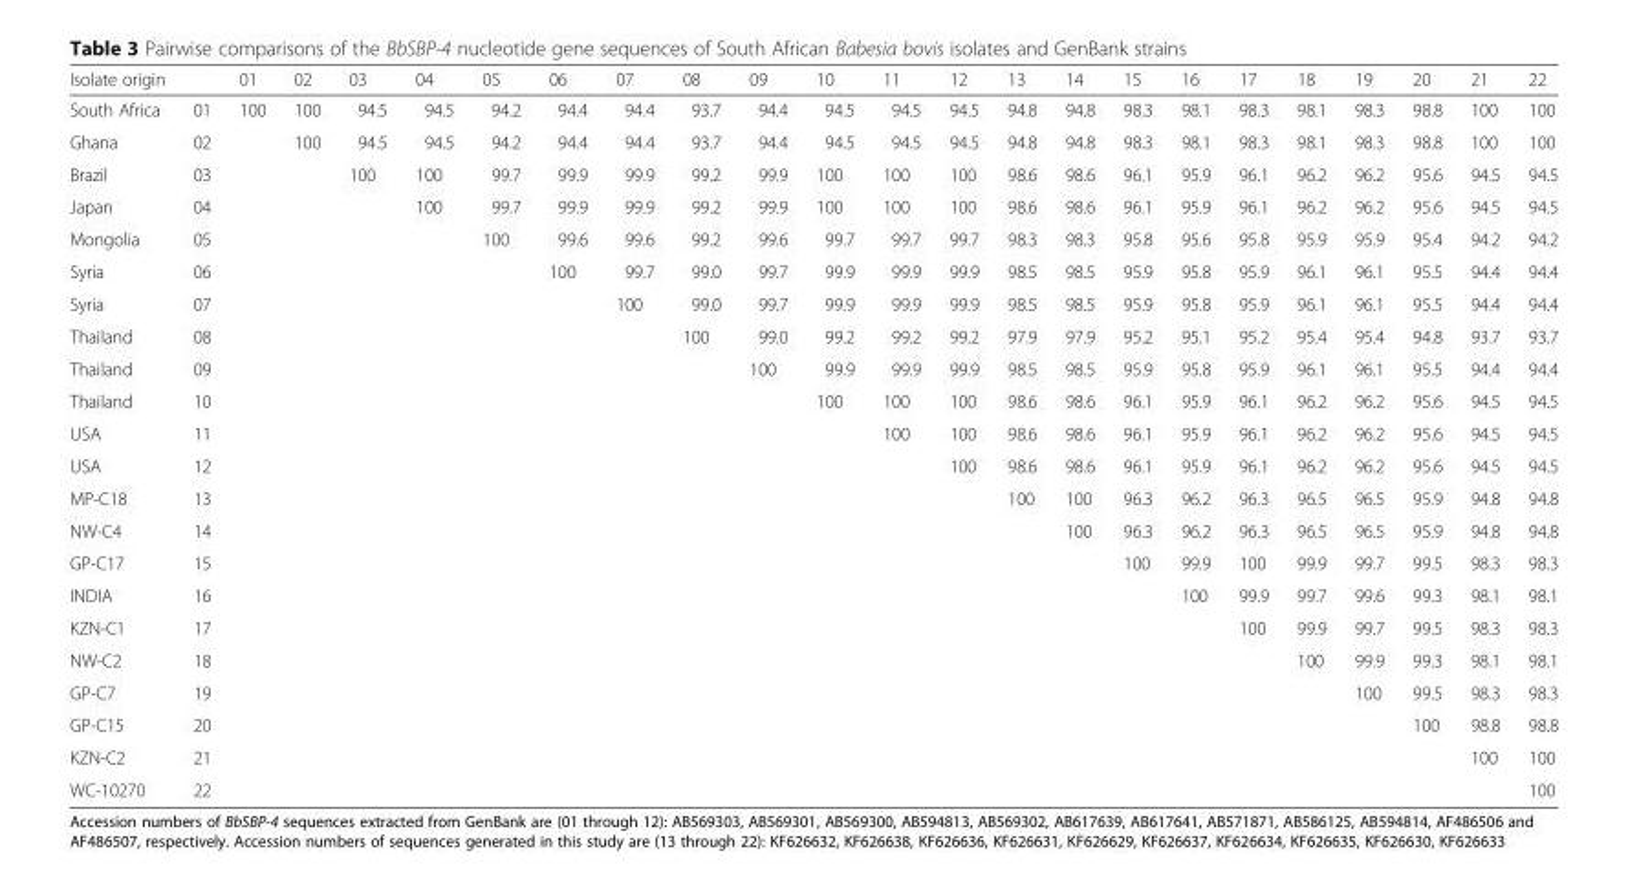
<table><thead><tr><td>Isolate origin</td><td></td><td>01</td><td>02</td><td>03</td><td>04</td><td>05</td><td>06</td><td>07</td><td>08</td><td>09</td><td>10</td><td>11</td><td>12</td><td>13</td><td>14</td><td>15</td><td>16</td><td>17</td><td>18</td><td>19</td><td>20</td><td>21</td><td>22</td></tr></thead><tbody><tr><td>South Africa</td><td>01</td><td>100</td><td>100</td><td>94.5</td><td>94.5</td><td>94.2</td><td>94.4</td><td>94.4</td><td>93.7</td><td>94.4</td><td>94.5</td><td>94.5</td><td>94.5</td><td>94.8</td><td>94.8</td><td>98.3</td><td>98.1</td><td>98.3</td><td>98.1</td><td>98.3</td><td>98.8</td><td>100</td><td>100</td></tr><tr><td>Ghana</td><td>02</td><td></td><td>100</td><td>94.5</td><td>94.5</td><td>94.2</td><td>94.4</td><td>94.4</td><td>93.7</td><td>94.4</td><td>94.5</td><td>94.5</td><td>94.5</td><td>94.8</td><td>94.8</td><td>98.3</td><td>98.1</td><td>98.3</td><td>98.1</td><td>98.3</td><td>98.8</td><td>100</td><td>100</td></tr><tr><td>Brazil</td><td>03</td><td></td><td></td><td>100</td><td>100</td><td>99.7</td><td>99.9</td><td>99.9</td><td>99.2</td><td>99.9</td><td>100</td><td>100</td><td>100</td><td>98.6</td><td>98.6</td><td>96.1</td><td>95.9</td><td>96.1</td><td>96.2</td><td>96.2</td><td>95.6</td><td>94.5</td><td>94.5</td></tr><tr><td>Japan</td><td>04</td><td></td><td></td><td></td><td>100</td><td>99.7</td><td>99.9</td><td>99.9</td><td>99.2</td><td>99.9</td><td>100</td><td>100</td><td>100</td><td>98.6</td><td>98.6</td><td>96.1</td><td>95.9</td><td>96.1</td><td>96.2</td><td>96.2</td><td>95.6</td><td>94.5</td><td>94.5</td></tr><tr><td>Mongolia</td><td>05</td><td></td><td></td><td></td><td></td><td>100</td><td>99.6</td><td>99.6</td><td>99.2</td><td>99.6</td><td>99.7</td><td>99.7</td><td>99.7</td><td>98.3</td><td>98.3</td><td>95.8</td><td>95.6</td><td>95.8</td><td>95.9</td><td>95.9</td><td>95.4</td><td>94.2</td><td>94.2</td></tr><tr><td>Syria</td><td>06</td><td></td><td></td><td></td><td></td><td></td><td>100</td><td>99.7</td><td>99.0</td><td>99.7</td><td>99.9</td><td>99.9</td><td>99.9</td><td>98.5</td><td>98.5</td><td>95.9</td><td>95.8</td><td>95.9</td><td>96.1</td><td>96.1</td><td>95.5</td><td>94.4</td><td>94.4</td></tr><tr><td>Syria</td><td>07</td><td></td><td></td><td></td><td></td><td></td><td></td><td>100</td><td>99.0</td><td>99.7</td><td>99.9</td><td>99.9</td><td>99.9</td><td>98.5</td><td>98.5</td><td>95.9</td><td>95.8</td><td>95.9</td><td>96.1</td><td>96.1</td><td>95.5</td><td>94.4</td><td>94.4</td></tr><tr><td>Thailand</td><td>08</td><td></td><td></td><td></td><td></td><td></td><td></td><td></td><td>100</td><td>99.0</td><td>99.2</td><td>99.2</td><td>99.2</td><td>97.9</td><td>97.9</td><td>95.2</td><td>95.1</td><td>95.2</td><td>95.4</td><td>95.4</td><td>94.8</td><td>93.7</td><td>93.7</td></tr><tr><td>Thailand</td><td>09</td><td></td><td></td><td></td><td></td><td></td><td></td><td></td><td></td><td>100</td><td>99.9</td><td>99.9</td><td>99.9</td><td>98.5</td><td>98.5</td><td>95.9</td><td>95.8</td><td>95.9</td><td>96.1</td><td>96.1</td><td>95.5</td><td>94.4</td><td>94.4</td></tr><tr><td>Thailand</td><td>10</td><td></td><td></td><td></td><td></td><td></td><td></td><td></td><td></td><td></td><td>100</td><td>100</td><td>100</td><td>98.6</td><td>98.6</td><td>96.1</td><td>95.9</td><td>96.1</td><td>96.2</td><td>96.2</td><td>95.6</td><td>94.5</td><td>94.5</td></tr><tr><td>USA</td><td>11</td><td></td><td></td><td></td><td></td><td></td><td></td><td></td><td></td><td></td><td></td><td>100</td><td>100</td><td>98.6</td><td>98.6</td><td>96.1</td><td>95.9</td><td>96.1</td><td>96.2</td><td>96.2</td><td>95.6</td><td>94.5</td><td>94.5</td></tr><tr><td>USA</td><td>12</td><td></td><td></td><td></td><td></td><td></td><td></td><td></td><td></td><td></td><td></td><td></td><td>100</td><td>98.6</td><td>98.6</td><td>96.1</td><td>95.9</td><td>96.1</td><td>96.2</td><td>96.2</td><td>95.6</td><td>94.5</td><td>94.5</td></tr><tr><td>MP-C18</td><td>13</td><td></td><td></td><td></td><td></td><td></td><td></td><td></td><td></td><td></td><td></td><td></td><td></td><td>100</td><td>100</td><td>96.3</td><td>96.2</td><td>96.3</td><td>96.5</td><td>96.5</td><td>95.9</td><td>94.8</td><td>94.8</td></tr><tr><td>NW-C4</td><td>14</td><td></td><td></td><td></td><td></td><td></td><td></td><td></td><td></td><td></td><td></td><td></td><td></td><td></td><td>100</td><td>96.3</td><td>96.2</td><td>96.3</td><td>96.5</td><td>96.5</td><td>95.9</td><td>94.8</td><td>94.8</td></tr><tr><td>GP-C17</td><td>15</td><td></td><td></td><td></td><td></td><td></td><td></td><td></td><td></td><td></td><td></td><td></td><td></td><td></td><td></td><td>100</td><td>99.9</td><td>100</td><td>99.9</td><td>99.7</td><td>99.5</td><td>98.3</td><td>98.3</td></tr><tr><td>INDIA</td><td>16</td><td></td><td></td><td></td><td></td><td></td><td></td><td></td><td></td><td></td><td></td><td></td><td></td><td></td><td></td><td></td><td>100</td><td>99.9</td><td>99.7</td><td>99.6</td><td>99.3</td><td>98.1</td><td>98.1</td></tr><tr><td>KZN-C1</td><td>17</td><td></td><td></td><td></td><td></td><td></td><td></td><td></td><td></td><td></td><td></td><td></td><td></td><td></td><td></td><td></td><td></td><td>100</td><td>99.9</td><td>99.7</td><td>99.5</td><td>98.3</td><td>98.3</td></tr><tr><td>NW-C2</td><td>18</td><td></td><td></td><td></td><td></td><td></td><td></td><td></td><td></td><td></td><td></td><td></td><td></td><td></td><td></td><td></td><td></td><td></td><td>100</td><td>99.9</td><td>99.3</td><td>98.1</td><td>98.1</td></tr><tr><td>GP-C7</td><td>19</td><td></td><td></td><td></td><td></td><td></td><td></td><td></td><td></td><td></td><td></td><td></td><td></td><td></td><td></td><td></td><td></td><td></td><td></td><td>100</td><td>99.5</td><td>98.3</td><td>98.3</td></tr><tr><td>GP-C15</td><td>20</td><td></td><td></td><td></td><td></td><td></td><td></td><td></td><td></td><td></td><td></td><td></td><td></td><td></td><td></td><td></td><td></td><td></td><td></td><td></td><td>100</td><td>98.8</td><td>98.8</td></tr><tr><td>KZN-C2</td><td>21</td><td></td><td></td><td></td><td></td><td></td><td></td><td></td><td></td><td></td><td></td><td></td><td></td><td></td><td></td><td></td><td></td><td></td><td></td><td></td><td></td><td>100</td><td>100</td></tr><tr><td>WC-10270</td><td>22</td><td></td><td></td><td></td><td></td><td></td><td></td><td></td><td></td><td></td><td></td><td></td><td></td><td></td><td></td><td></td><td></td><td></td><td></td><td></td><td></td><td></td><td>100</td></tr></tbody></table>